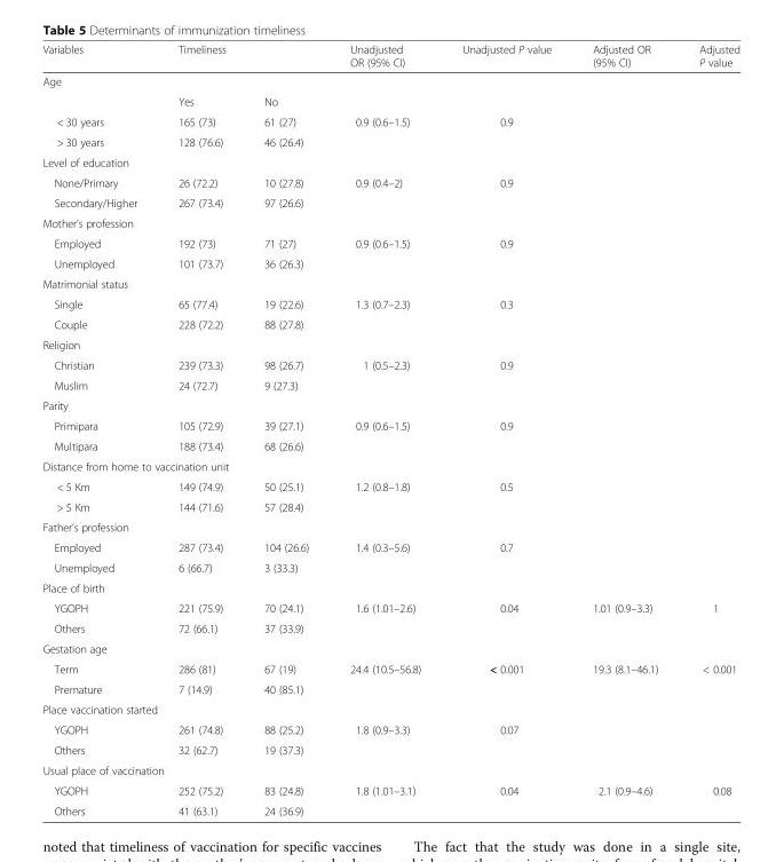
<table><thead><tr><td>Variables</td><td colspan="2">Timeliness</td><td>Unadjusted OR (95% CI)</td><td>Unadjusted P value</td><td>Adjusted OR (95% CI)</td><td>Adjusted P value</td></tr><tr><td colspan="7">Age</td></tr><tr><td></td><td>Yes</td><td>No</td><td></td><td></td><td></td><td></td></tr></thead><tbody><tr><td>&lt; 30 years</td><td>165 (73)</td><td>61 (27)</td><td>0.9 (0.6–1.5)</td><td>0.9</td><td></td><td></td></tr><tr><td>&gt; 30 years</td><td>128 (76.6)</td><td>46 (26.4)</td><td></td><td></td><td></td><td></td></tr><tr><td colspan="7">Level of education</td></tr><tr><td>None/Primary</td><td>26 (72.2)</td><td>10 (27.8)</td><td>0.9 (0.4–2)</td><td>0.9</td><td></td><td></td></tr><tr><td>Secondary/Higher</td><td>267 (73.4)</td><td>97 (26.6)</td><td></td><td></td><td></td><td></td></tr><tr><td colspan="7">Mother’s profession</td></tr><tr><td>Employed</td><td>192 (73)</td><td>71 (27)</td><td>0.9 (0.6–1.5)</td><td>0.9</td><td></td><td></td></tr><tr><td>Unemployed</td><td>101 (73.7)</td><td>36 (26.3)</td><td></td><td></td><td></td><td></td></tr><tr><td colspan="7">Matrimonial status</td></tr><tr><td>Single</td><td>65 (77.4)</td><td>19 (22.6)</td><td>1.3 (0.7–2.3)</td><td>0.3</td><td></td><td></td></tr><tr><td>Couple</td><td>228 (72.2)</td><td>88 (27.8)</td><td></td><td></td><td></td><td></td></tr><tr><td colspan="7">Religion</td></tr><tr><td>Christian</td><td>239 (73.3)</td><td>98 (26.7)</td><td>1 (0.5–2.3)</td><td>0.9</td><td></td><td></td></tr><tr><td>Muslim</td><td>24 (72.7)</td><td>9 (27.3)</td><td></td><td></td><td></td><td></td></tr><tr><td colspan="7">Parity</td></tr><tr><td>Primipara</td><td>105 (72.9)</td><td>39 (27.1)</td><td>0.9 (0.6–1.5)</td><td>0.9</td><td></td><td></td></tr><tr><td>Multipara</td><td>188 (73.4)</td><td>68 (26.6)</td><td></td><td></td><td></td><td></td></tr><tr><td colspan="7">Distance from home to vaccination unit</td></tr><tr><td>&lt; 5 Km</td><td>149 (74.9)</td><td>50 (25.1)</td><td>1.2 (0.8–1.8)</td><td>0.5</td><td></td><td></td></tr><tr><td>&gt; 5 Km</td><td>144 (71.6)</td><td>57 (28.4)</td><td></td><td></td><td></td><td></td></tr><tr><td colspan="7">Father’s profession</td></tr><tr><td>Employed</td><td>287 (73.4)</td><td>104 (26.6)</td><td>1.4 (0.3–5.6)</td><td>0.7</td><td></td><td></td></tr><tr><td>Unemployed</td><td>6 (66.7)</td><td>3 (33.3)</td><td></td><td></td><td></td><td></td></tr><tr><td colspan="7">Place of birth</td></tr><tr><td>YGOPH</td><td>221 (75.9)</td><td>70 (24.1)</td><td>1.6 (1.01–2.6)</td><td>0.04</td><td>1.01 (0.9–3.3)</td><td>1</td></tr><tr><td>Others</td><td>72 (66.1)</td><td>37 (33.9)</td><td></td><td></td><td></td><td></td></tr><tr><td colspan="7">Gestation age</td></tr><tr><td>Term</td><td>286 (81)</td><td>67 (19)</td><td>24.4 (10.5–56.8)</td><td>&lt; 0.001</td><td>19.3 (8.1–46.1)</td><td>&lt; 0.001</td></tr><tr><td>Premature</td><td>7 (14.9)</td><td>40 (85.1)</td><td></td><td></td><td></td><td></td></tr><tr><td colspan="7">Place vaccination started</td></tr><tr><td>YGOPH</td><td>261 (74.8)</td><td>88 (25.2)</td><td>1.8 (0.9–3.3)</td><td>0.07</td><td></td><td></td></tr><tr><td>Others</td><td>32 (62.7)</td><td>19 (37.3)</td><td></td><td></td><td></td><td></td></tr><tr><td colspan="7">Usual place of vaccination</td></tr><tr><td>YGOPH</td><td>252 (75.2)</td><td>83 (24.8)</td><td>1.8 (1.01–3.1)</td><td>0.04</td><td>2.1 (0.9–4.6)</td><td>0.08</td></tr><tr><td>Others</td><td>41 (63.1)</td><td>24 (36.9)</td><td></td><td></td><td></td><td></td></tr></tbody></table>